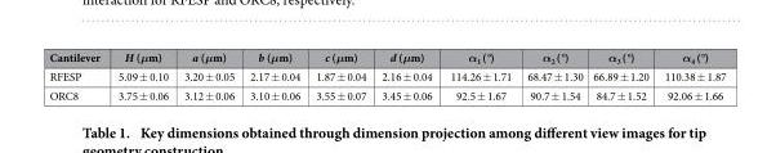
<table><thead><tr><td>Cantilever</td><td>H (μm)</td><td>a (μm)</td><td>b (μm)</td><td>c (μm)</td><td>d (μm)</td><td>α<sub>1</sub> (°)</td><td>α<sub>2</sub> (°)</td><td>α<sub>3</sub> (°)</td><td>α<sub>4</sub> (°)</td></tr></thead><tbody><tr><td>RFESP</td><td>5.09 ± 0.10</td><td>3.20 ± 0.05</td><td>2.17 ± 0.04</td><td>1.87 ± 0.04</td><td>2.16 ± 0.04</td><td>114.26 ± 1.71</td><td>68.47 ± 1.30</td><td>66.89 ± 1.20</td><td>110.38 ± 1.87</td></tr><tr><td>ORC8</td><td>3.75 ± 0.06</td><td>3.12 ± 0.06</td><td>3.10 ± 0.06</td><td>3.55 ± 0.07</td><td>3.45 ± 0.06</td><td>92.5 ± 1.67</td><td>90.7 ± 1.54</td><td>84.7 ± 1.52</td><td>92.06 ± 1.66</td></tr></tbody></table>